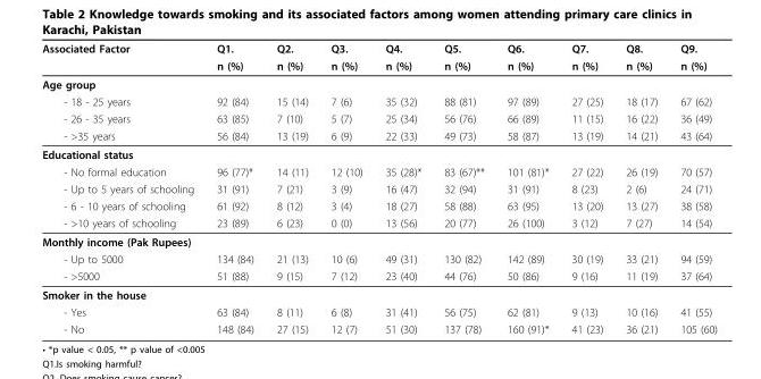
<table><thead><tr><td rowspan="2">Associated Factor</td><td rowspan="2">Q1. n (%)</td><td rowspan="2">Q2. n (%)</td><td rowspan="2">Q3. n (%)</td><td rowspan="2">Q4. n (%)</td><td rowspan="2">Q5. n (%)</td><td rowspan="2">Q6. n (%)</td><td rowspan="2">Q7. n (%)</td><td rowspan="2">Q8. n (%)</td><td rowspan="2">Q9. n (%)</td></tr><tr></tr></thead><tbody><tr><td colspan="10">Age group</td></tr><tr><td>- 18 - 25 years</td><td>92 (84)</td><td>15 (14)</td><td>7 (6)</td><td>35 (32)</td><td>88 (81)</td><td>97 (89)</td><td>27 (25)</td><td>18 (17)</td><td>67 (62)</td></tr><tr><td>- 26 - 35 years</td><td>63 (85)</td><td>7 (10)</td><td>5 (7)</td><td>25 (34)</td><td>56 (76)</td><td>66 (89)</td><td>11 (15)</td><td>16 (22)</td><td>36 (49)</td></tr><tr><td>- &gt;35 years</td><td>56 (84)</td><td>13 (19)</td><td>6 (9)</td><td>22 (33)</td><td>49 (73)</td><td>58 (87)</td><td>13 (19)</td><td>14 (21)</td><td>43 (64)</td></tr><tr><td colspan="10">Educational status</td></tr><tr><td>- No formal education</td><td>96 (77)*</td><td>14 (11)</td><td>12 (10)</td><td>35 (28)*</td><td>83 (67)**</td><td>101 (81)*</td><td>27 (22)</td><td>26 (19)</td><td>70 (57)</td></tr><tr><td>- Up to 5 years of schooling</td><td>31 (91)</td><td>7 (21)</td><td>3 (9)</td><td>16 (47)</td><td>32 (94)</td><td>31 (91)</td><td>8 (23)</td><td>2 (6)</td><td>24 (71)</td></tr><tr><td>- 6 - 10 years of schooling</td><td>61 (92)</td><td>8 (12)</td><td>3 (4)</td><td>18 (27)</td><td>58 (88)</td><td>63 (95)</td><td>13 (20)</td><td>13 (27)</td><td>38 (58)</td></tr><tr><td>- &gt;10 years of schooling</td><td>23 (89)</td><td>6 (23)</td><td>0 (0)</td><td>13 (56)</td><td>20 (77)</td><td>26 (100)</td><td>3 (12)</td><td>7 (27)</td><td>14 (54)</td></tr><tr><td colspan="10">Monthly income (Pak Rupees)</td></tr><tr><td>- Up to 5000</td><td>134 (84)</td><td>21 (13)</td><td>10 (6)</td><td>49 (31)</td><td>130 (82)</td><td>142 (89)</td><td>30 (19)</td><td>33 (21)</td><td>94 (59)</td></tr><tr><td>- &gt;5000</td><td>51 (88)</td><td>9 (15)</td><td>7 (12)</td><td>23 (40)</td><td>44 (76)</td><td>50 (86)</td><td>9 (16)</td><td>11 (19)</td><td>37 (64)</td></tr><tr><td colspan="10">Smoker in the house</td></tr><tr><td>- Yes</td><td>63 (84)</td><td>8 (11)</td><td>6 (8)</td><td>31 (41)</td><td>56 (75)</td><td>62 (81)</td><td>9 (13)</td><td>10 (16)</td><td>41 (55)</td></tr><tr><td>- No</td><td>148 (84)</td><td>27 (15)</td><td>12 (7)</td><td>51 (30)</td><td>137 (78)</td><td>160 (91)*</td><td>41 (23)</td><td>36 (21)</td><td>105 (60)</td></tr></tbody></table>